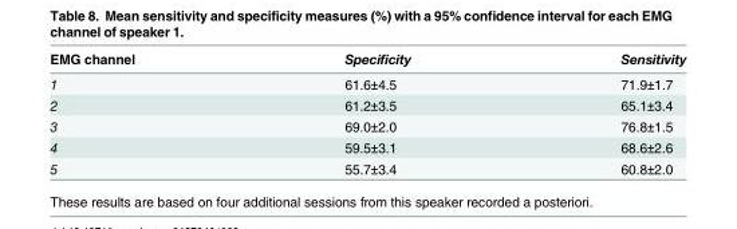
<table><thead><tr><td>EMG channel</td><td>Specificity</td><td>Sensitivity</td></tr></thead><tbody><tr><td>1</td><td>61.6±4.5</td><td>71.9±1.7</td></tr><tr><td>2</td><td>61.2±3.5</td><td>65.1±3.4</td></tr><tr><td>3</td><td>69.0±2.0</td><td>76.8±1.5</td></tr><tr><td>4</td><td>59.5±3.1</td><td>68.6±2.6</td></tr><tr><td>5</td><td>55.7±3.4</td><td>60.8±2.0</td></tr></tbody></table>